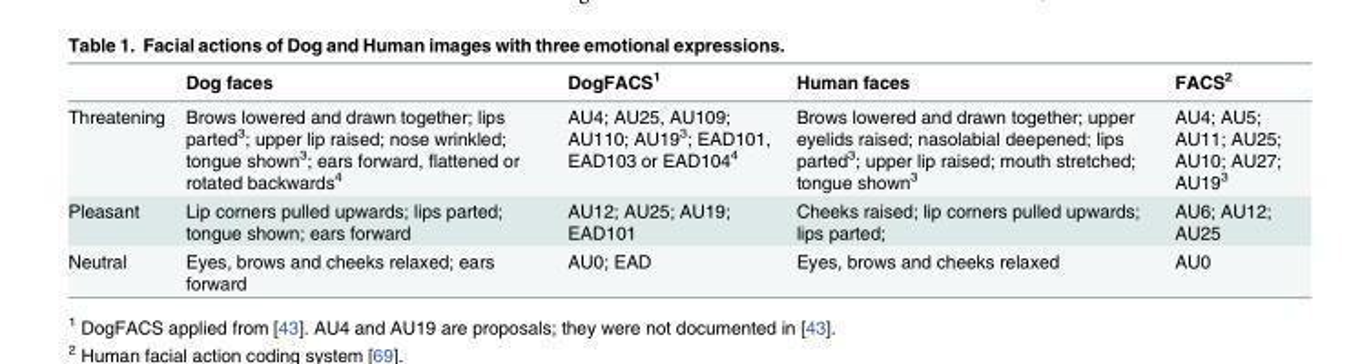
<table><thead><tr><td></td><td>Dog faces</td><td>DogFACS<sup>1</sup></td><td>Human faces</td><td>FACS<sup>2</sup></td></tr></thead><tbody><tr><td>Threatening</td><td>Brows lowered and drawn together; lips parted<sup>3</sup>; upper lip raised; nose wrinkled; tongue shown<sup>3</sup>; ears forward, flattened or rotated backwards<sup>4</sup></td><td>AU4; AU25, AU109; AU110; AU19<sup>3</sup>; EAD101, EAD103 or EAD104<sup>4</sup></td><td>Brows lowered and drawn together; upper eyelids raised; nasolabial deepened; lips parted<sup>3</sup>; upper lip raised; mouth stretched; tongue shown<sup>3</sup></td><td>AU4; AU5; AU11; AU25; AU10; AU27; AU19<sup>3</sup></td></tr><tr><td>Pleasant</td><td>Lip corners pulled upwards; lips parted; tongue shown; ears forward</td><td>AU12; AU25; AU19; EAD101</td><td>Cheeks raised; lip corners pulled upwards; lips parted;</td><td>AU6; AU12; AU25</td></tr><tr><td>Neutral</td><td>Eyes, brows and cheeks relaxed; ears forward</td><td>AU0; EAD</td><td>Eyes, brows and cheeks relaxed</td><td>AU0</td></tr></tbody></table>